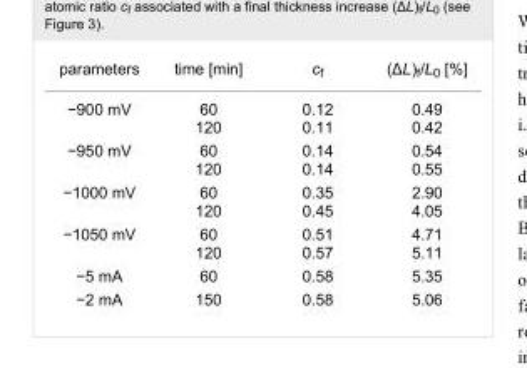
<table><tbody><tr><td>parameters</td><td>time [min]</td><td>c<sub>f</sub></td><td>(ΔL)<sub>f</sub>/L<sub>0</sub> [%]</td></tr><tr><td>−900 mV</td><td>60 120</td><td>0.12 0.11</td><td>0.49 0.42</td></tr><tr><td>−950 mV</td><td>60 120</td><td>0.14 0.14</td><td>0.54 0.55</td></tr><tr><td>−1000 mV</td><td>60 120</td><td>0.35 0.45</td><td>2.90 4.05</td></tr><tr><td>−1050 mV</td><td>60 120</td><td>0.51 0.57</td><td>4.71 5.11</td></tr><tr><td>−5 mA</td><td>60</td><td>0.58</td><td>5.35</td></tr><tr><td>−2 mA</td><td>150</td><td>0.58</td><td>5.06</td></tr></tbody></table>